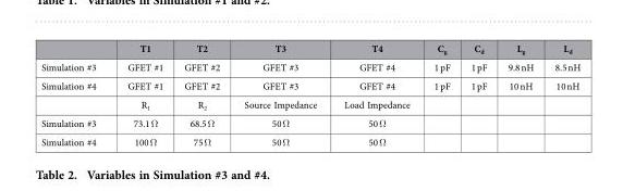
<table><thead><tr><td></td><td>T1</td><td>T2</td><td>T3</td><td>T4</td><td>C<sub>g</sub></td><td>C<sub>d</sub></td><td>L<sub>g</sub></td><td>L<sub>d</sub></td></tr></thead><tbody><tr><td>Simulation #3</td><td>GFET #1</td><td>GFET #2</td><td>GFET #3</td><td>GFET #4</td><td>1 pF</td><td>1 pF</td><td>9.8 nH</td><td>8.5 nH</td></tr><tr><td rowspan="2">Simulation #4</td><td>GFET #1</td><td>GFET #2</td><td>GFET #3</td><td>GFET #4</td><td>1 pF</td><td>1 pF</td><td>10 nH</td><td>10 nH</td></tr><tr><td>R<sub>1</sub></td><td>R<sub>2</sub></td><td>Source Impedance</td><td>Load Impedance</td><td></td><td></td><td></td><td></td></tr><tr><td>Simulation #3</td><td>73.1 Ω</td><td>68.5 Ω</td><td>50 Ω</td><td>50 Ω</td><td></td><td></td><td></td><td></td></tr><tr><td>Simulation #4</td><td>100 Ω</td><td>75 Ω</td><td>50 Ω</td><td>50 Ω</td><td></td><td></td><td></td><td></td></tr></tbody></table>